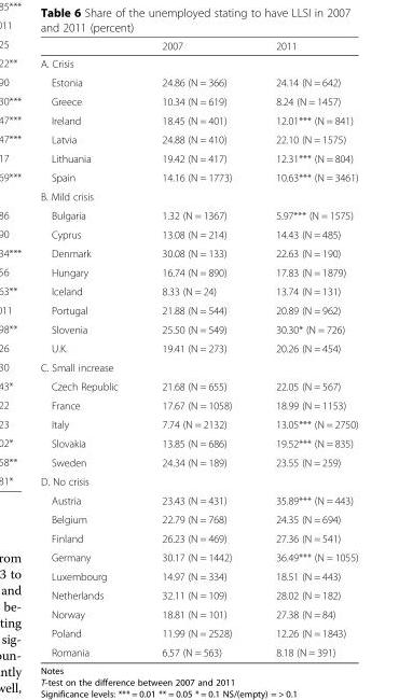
<table><thead><tr><td></td><td>2007</td><td>2011</td></tr></thead><tbody><tr><td colspan="3">A. Crisis</td></tr><tr><td>Estonia</td><td>24.86 (N = 366)</td><td>24.14 (N = 642)</td></tr><tr><td>Greece</td><td>10.34 (N = 619)</td><td>8.24 (N = 1457)</td></tr><tr><td>Ireland</td><td>18.45 (N = 401)</td><td>12.01*** (N = 841)</td></tr><tr><td>Latvia</td><td>24.88 (N = 410)</td><td>22.10 (N = 1575)</td></tr><tr><td>Lithuania</td><td>19.42 (N = 417)</td><td>12.31*** (N = 804)</td></tr><tr><td>Spain</td><td>14.16 (N = 1773)</td><td>10.63*** (N = 3461)</td></tr><tr><td colspan="3">B. Mild crisis</td></tr><tr><td>Bulgaria</td><td>1.32 (N = 1367)</td><td>5.97*** (N = 1575)</td></tr><tr><td>Cyprus</td><td>13.08 (N = 214)</td><td>14.43 (N = 485)</td></tr><tr><td>Denmark</td><td>30.08 (N = 133)</td><td>22.63 (N = 190)</td></tr><tr><td>Hungary</td><td>16.74 (N = 890)</td><td>17.83 (N = 1879)</td></tr><tr><td>Iceland</td><td>8.33 (N = 24)</td><td>13.74 (N = 131)</td></tr><tr><td>Portugal</td><td>21.88 (N = 544)</td><td>20.89 (N = 962)</td></tr><tr><td>Slovenia</td><td>25.50 (N = 549)</td><td>30.30* (N = 726)</td></tr><tr><td>U.K.</td><td>19.41 (N = 273)</td><td>20.26 (N = 454)</td></tr><tr><td colspan="3">C. Small increase</td></tr><tr><td>Czech Republic</td><td>21.68 (N = 655)</td><td>22.05 (N = 567)</td></tr><tr><td>France</td><td>17.67 (N = 1058)</td><td>18.99 (N = 1153)</td></tr><tr><td>Italy</td><td>7.74 (N = 2132)</td><td>13.05*** (N = 2750)</td></tr><tr><td>Slovakia</td><td>13.85 (N = 686)</td><td>19.52*** (N = 835)</td></tr><tr><td>Sweden</td><td>24.34 (N = 189)</td><td>23.55 (N = 259)</td></tr><tr><td colspan="3">D. No crisis</td></tr><tr><td>Austria</td><td>23.43 (N = 431)</td><td>35.89*** (N = 443)</td></tr><tr><td>Belgium</td><td>22.79 (N = 768)</td><td>24.35 (N = 694)</td></tr><tr><td>Finland</td><td>26.23 (N = 469)</td><td>27.36 (N = 541)</td></tr><tr><td>Germany</td><td>30.17 (N = 1442)</td><td>36.49*** (N = 1055)</td></tr><tr><td>Luxembourg</td><td>14.97 (N = 334)</td><td>18.51 (N = 443)</td></tr><tr><td>Netherlands</td><td>32.11 (N = 109)</td><td>28.02 (N = 182)</td></tr><tr><td>Norway</td><td>18.81 (N = 101)</td><td>27.38 (N = 84)</td></tr><tr><td>Poland</td><td>11.99 (N = 2528)</td><td>12.26 (N = 1843)</td></tr><tr><td>Romania</td><td>6.57 (N = 563)</td><td>8.18 (N = 391)</td></tr></tbody></table>